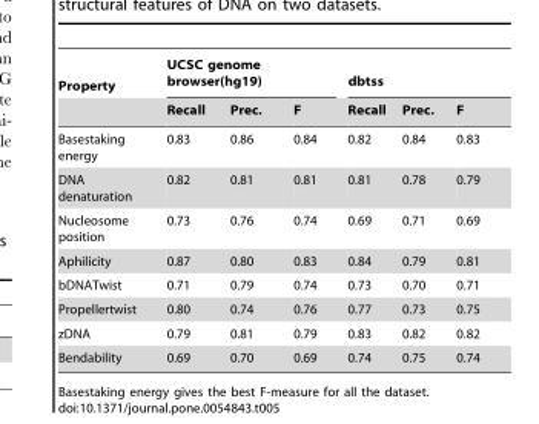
<table><thead><tr><td rowspan="2">Property</td><td colspan="3">UCSC genome browser(hg19)</td><td colspan="3">dbtss</td></tr><tr><td>Recall</td><td>Prec.</td><td>F</td><td>Recall</td><td>Prec.</td><td>F</td></tr></thead><tbody><tr><td>Basestaking energy</td><td>0.83</td><td>0.86</td><td>0.84</td><td>0.82</td><td>0.84</td><td>0.83</td></tr><tr><td>DNA denaturation</td><td>0.82</td><td>0.81</td><td>0.81</td><td>0.81</td><td>0.78</td><td>0.79</td></tr><tr><td>Nucleosome position</td><td>0.73</td><td>0.76</td><td>0.74</td><td>0.69</td><td>0.71</td><td>0.69</td></tr><tr><td>Aphilicity</td><td>0.87</td><td>0.80</td><td>0.83</td><td>0.84</td><td>0.79</td><td>0.81</td></tr><tr><td>bDNATwist</td><td>0.71</td><td>0.79</td><td>0.74</td><td>0.73</td><td>0.70</td><td>0.71</td></tr><tr><td>Propellertwist</td><td>0.80</td><td>0.74</td><td>0.76</td><td>0.77</td><td>0.73</td><td>0.75</td></tr><tr><td>zDNA</td><td>0.79</td><td>0.81</td><td>0.79</td><td>0.83</td><td>0.82</td><td>0.82</td></tr><tr><td>Bendability</td><td>0.69</td><td>0.70</td><td>0.69</td><td>0.74</td><td>0.75</td><td>0.74</td></tr></tbody></table>